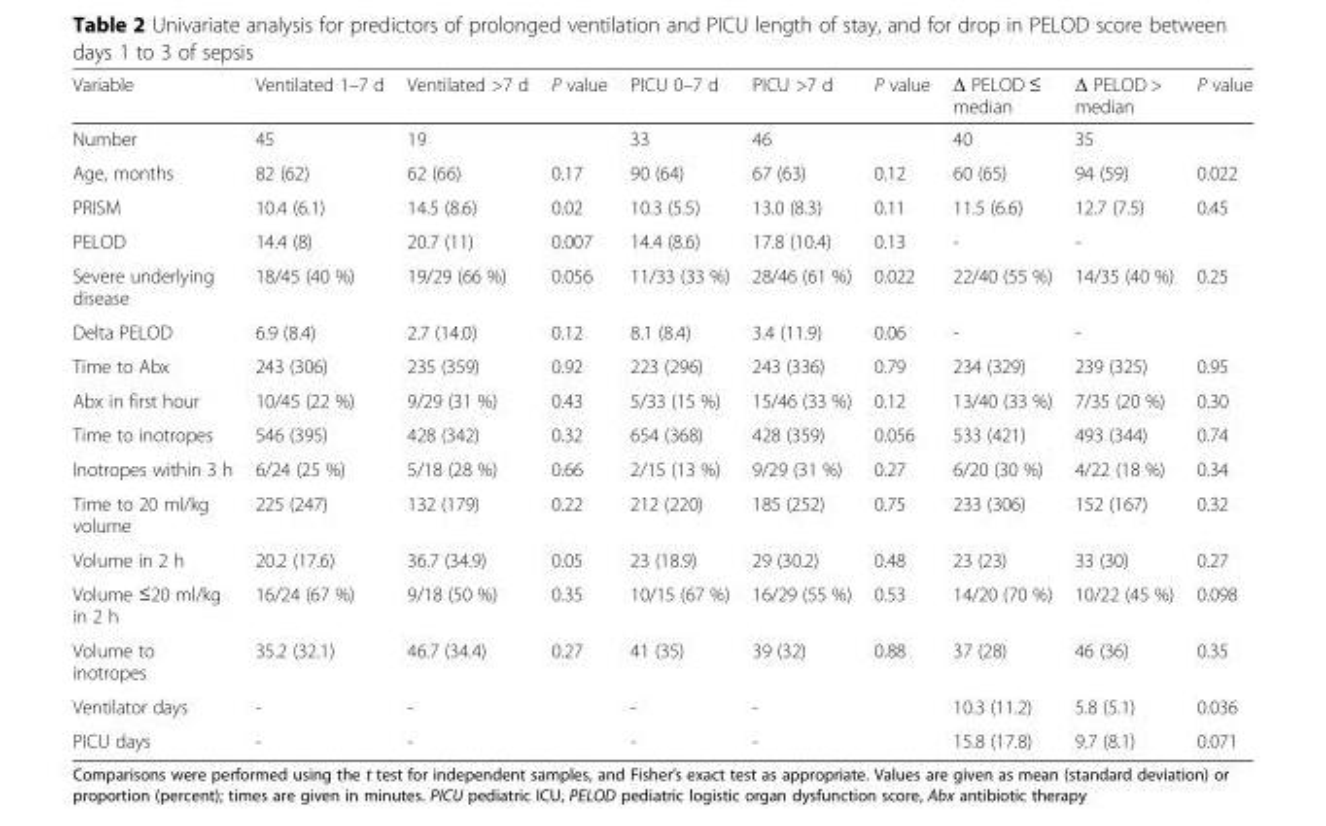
<table><thead><tr><td>Variable</td><td>Ventilated 1–7 d</td><td>Ventilated &gt;7 d</td><td>P value</td><td>PICU 0–7 d</td><td>PICU &gt;7 d</td><td>P value</td><td>Δ PELOD ≤ median</td><td>Δ PELOD &gt; median</td><td>P value</td></tr></thead><tbody><tr><td>Number</td><td>45</td><td>19</td><td></td><td>33</td><td>46</td><td></td><td>40</td><td>35</td><td></td></tr><tr><td>Age, months</td><td>82 (62)</td><td>62 (66)</td><td>0.17</td><td>90 (64)</td><td>67 (63)</td><td>0.12</td><td>60 (65)</td><td>94 (59)</td><td>0.022</td></tr><tr><td>PRISM</td><td>10.4 (6.1)</td><td>14.5 (8.6)</td><td>0.02</td><td>10.3 (5.5)</td><td>13.0 (8.3)</td><td>0.11</td><td>11.5 (6.6)</td><td>12.7 (7.5)</td><td>0.45</td></tr><tr><td>PELOD</td><td>14.4 (8)</td><td>20.7 (11)</td><td>0.007</td><td>14.4 (8.6)</td><td>17.8 (10.4)</td><td>0.13</td><td>-</td><td>-</td><td></td></tr><tr><td>Severe underlying disease</td><td>18/45 (40 %)</td><td>19/29 (66 %)</td><td>0.056</td><td>11/33 (33 %)</td><td>28/46 (61 %)</td><td>0.022</td><td>22/40 (55 %)</td><td>14/35 (40 %)</td><td>0.25</td></tr><tr><td>Delta PELOD</td><td>6.9 (8.4)</td><td>2.7 (14.0)</td><td>0.12</td><td>8.1 (8.4)</td><td>3.4 (11.9)</td><td>0.06</td><td>-</td><td>-</td><td></td></tr><tr><td>Time to Abx</td><td>243 (306)</td><td>235 (359)</td><td>0.92</td><td>223 (296)</td><td>243 (336)</td><td>0.79</td><td>234 (329)</td><td>239 (325)</td><td>0.95</td></tr><tr><td>Abx in first hour</td><td>10/45 (22 %)</td><td>9/29 (31 %)</td><td>0.43</td><td>5/33 (15 %)</td><td>15/46 (33 %)</td><td>0.12</td><td>13/40 (33 %)</td><td>7/35 (20 %)</td><td>0.30</td></tr><tr><td>Time to inotropes</td><td>546 (395)</td><td>428 (342)</td><td>0.32</td><td>654 (368)</td><td>428 (359)</td><td>0.056</td><td>533 (421)</td><td>493 (344)</td><td>0.74</td></tr><tr><td>Inotropes within 3 h</td><td>6/24 (25 %)</td><td>5/18 (28 %)</td><td>0.66</td><td>2/15 (13 %)</td><td>9/29 (31 %)</td><td>0.27</td><td>6/20 (30 %)</td><td>4/22 (18 %)</td><td>0.34</td></tr><tr><td>Time to 20 ml/kg volume</td><td>225 (247)</td><td>132 (179)</td><td>0.22</td><td>212 (220)</td><td>185 (252)</td><td>0.75</td><td>233 (306)</td><td>152 (167)</td><td>0.32</td></tr><tr><td>Volume in 2 h</td><td>20.2 (17.6)</td><td>36.7 (34.9)</td><td>0.05</td><td>23 (18.9)</td><td>29 (30.2)</td><td>0.48</td><td>23 (23)</td><td>33 (30)</td><td>0.27</td></tr><tr><td>Volume ≤20 ml/kg in 2 h</td><td>16/24 (67 %)</td><td>9/18 (50 %)</td><td>0.35</td><td>10/15 (67 %)</td><td>16/29 (55 %)</td><td>0.53</td><td>14/20 (70 %)</td><td>10/22 (45 %)</td><td>0.098</td></tr><tr><td>Volume to inotropes</td><td>35.2 (32.1)</td><td>46.7 (34.4)</td><td>0.27</td><td>41 (35)</td><td>39 (32)</td><td>0.88</td><td>37 (28)</td><td>46 (36)</td><td>0.35</td></tr><tr><td>Ventilator days</td><td>-</td><td>-</td><td></td><td>-</td><td>-</td><td></td><td>10.3 (11.2)</td><td>5.8 (5.1)</td><td>0.036</td></tr><tr><td>PICU days</td><td>-</td><td>-</td><td></td><td>-</td><td>-</td><td></td><td>15.8 (17.8)</td><td>9.7 (8.1)</td><td>0.071</td></tr></tbody></table>